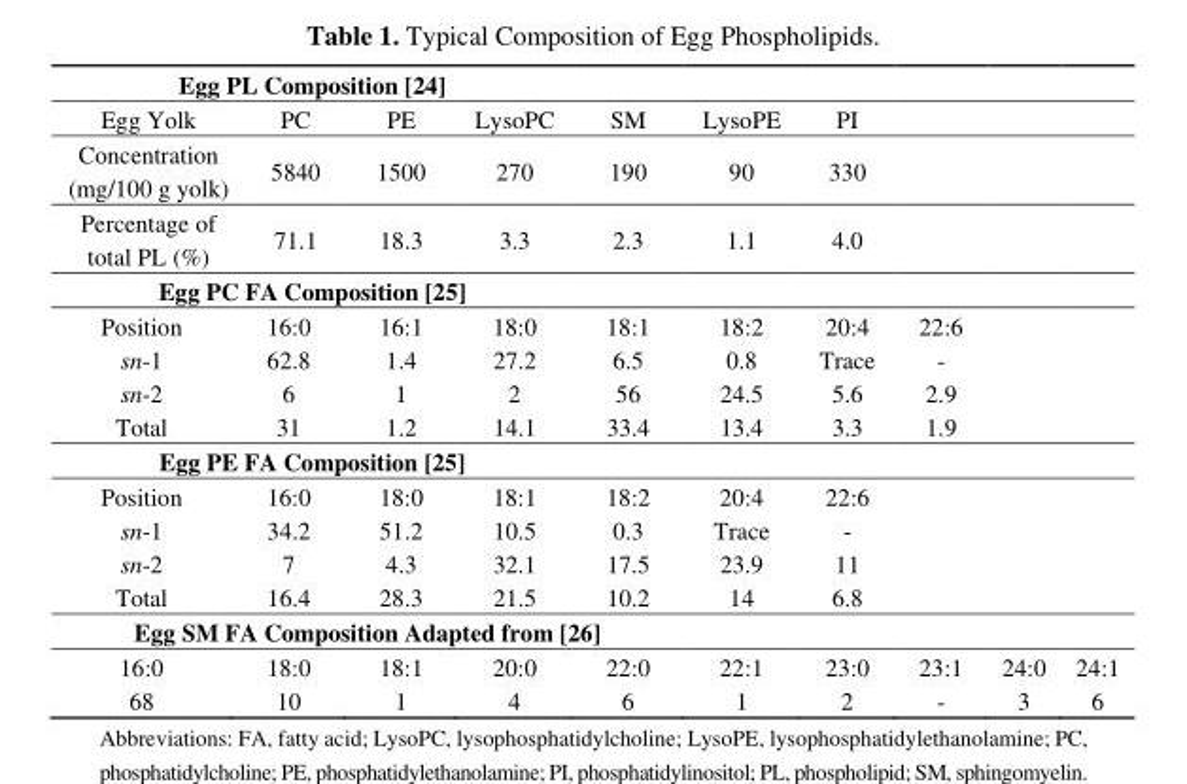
<table><tbody><tr><td colspan="10">Egg PL Composition [24]</td></tr><tr><td>Egg Yolk</td><td>PC</td><td>PE</td><td>LysoPC</td><td>SM</td><td>LysoPE</td><td>PI</td><td></td><td></td><td></td></tr><tr><td>Concentration (mg/100 g yolk)</td><td>5840</td><td>1500</td><td>270</td><td>190</td><td>90</td><td>330</td><td></td><td></td><td></td></tr><tr><td>Percentage of total PL (%)</td><td>71.1</td><td>18.3</td><td>3.3</td><td>2.3</td><td>1.1</td><td>4.0</td><td></td><td></td><td></td></tr><tr><td colspan="10">Egg PC FA Composition [25]</td></tr><tr><td>Position</td><td>16:0</td><td>16:1</td><td>18:0</td><td>18:1</td><td>18:2</td><td>20:4</td><td>22:6</td><td></td><td></td></tr><tr><td>sn-1</td><td>62.8</td><td>1.4</td><td>27.2</td><td>6.5</td><td>0.8</td><td>Trace</td><td>-</td><td></td><td></td></tr><tr><td>sn-2</td><td>6</td><td>1</td><td>2</td><td>56</td><td>24.5</td><td>5.6</td><td>2.9</td><td></td><td></td></tr><tr><td>Total</td><td>31</td><td>1.2</td><td>14.1</td><td>33.4</td><td>13.4</td><td>3.3</td><td>1.9</td><td></td><td></td></tr><tr><td colspan="10">Egg PE FA Composition [25]</td></tr><tr><td>Position</td><td>16:0</td><td>18:0</td><td>18:1</td><td>18:2</td><td>20:4</td><td>22:6</td><td></td><td></td><td></td></tr><tr><td>sn-1</td><td>34.2</td><td>51.2</td><td>10.5</td><td>0.3</td><td>Trace</td><td>-</td><td></td><td></td><td></td></tr><tr><td>sn-2</td><td>7</td><td>4.3</td><td>32.1</td><td>17.5</td><td>23.9</td><td>11</td><td></td><td></td><td></td></tr><tr><td>Total</td><td>16.4</td><td>28.3</td><td>21.5</td><td>10.2</td><td>14</td><td>6.8</td><td></td><td></td><td></td></tr><tr><td colspan="10">Egg SM FA Composition Adapted from [26]</td></tr><tr><td>16:0</td><td>18:0</td><td>18:1</td><td>20:0</td><td>22:0</td><td>22:1</td><td>23:0</td><td>23:1</td><td>24:0</td><td>24:1</td></tr><tr><td>68</td><td>10</td><td>1</td><td>4</td><td>6</td><td>1</td><td>2</td><td>-</td><td>3</td><td>6</td></tr></tbody></table>